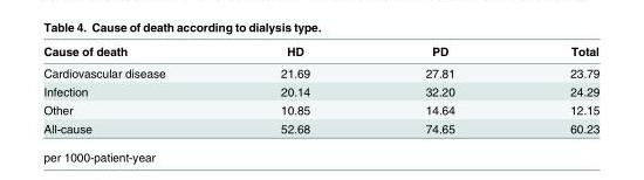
<table><thead><tr><td>Cause of death</td><td>HD</td><td>PD</td><td>Total</td></tr></thead><tbody><tr><td>Cardiovascular disease</td><td>21.69</td><td>27.81</td><td>23.79</td></tr><tr><td>Infection</td><td>20.14</td><td>32.20</td><td>24.29</td></tr><tr><td>Other</td><td>10.85</td><td>14.64</td><td>12.15</td></tr><tr><td>All-cause</td><td>52.68</td><td>74.65</td><td>60.23</td></tr></tbody></table>